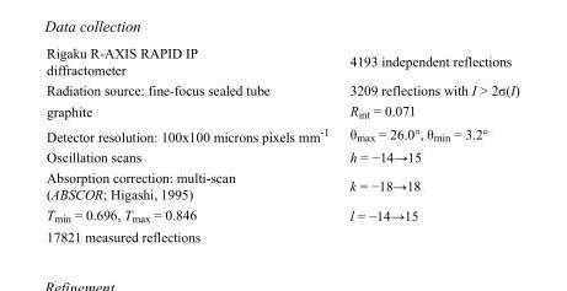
<table><tbody><tr><td>Rigaku R-AXIS RAPID IP diffractometer</td><td>4193 independent reflections</td></tr><tr><td>Radiation source: fine-focus sealed tube</td><td>3209 reflections with I &gt; 2σ(I)</td></tr><tr><td>graphite</td><td>R<sub>int</sub> = 0.071</td></tr><tr><td>Detector resolution: 100x100 microns pixels mm<sup>-1</sup></td><td>θ<sub>max</sub> = 26.0°, θ<sub>min</sub> = 3.2°</td></tr><tr><td>Oscillation scans</td><td>h = −14→15</td></tr><tr><td>Absorption correction: multi-scan (ABSCOR; Higashi, 1995)</td><td>k = −18→18</td></tr><tr><td>T<sub>min</sub> = 0.696, T<sub>max</sub> = 0.846</td><td>l = −14→15</td></tr><tr><td>17821 measured reflections</td><td></td></tr></tbody></table>